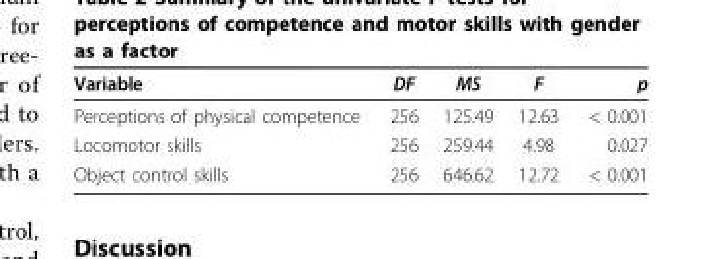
<table><thead><tr><td>Variable</td><td>DF</td><td>MS</td><td>F</td><td>p</td></tr></thead><tbody><tr><td>Perceptions of physical competence</td><td>256</td><td>125.49</td><td>12.63</td><td>&lt; 0.001</td></tr><tr><td>Locomotor skills</td><td>256</td><td>259.44</td><td>4.98</td><td>0.027</td></tr><tr><td>Object control skills</td><td>256</td><td>646.62</td><td>12.72</td><td>&lt; 0.001</td></tr></tbody></table>